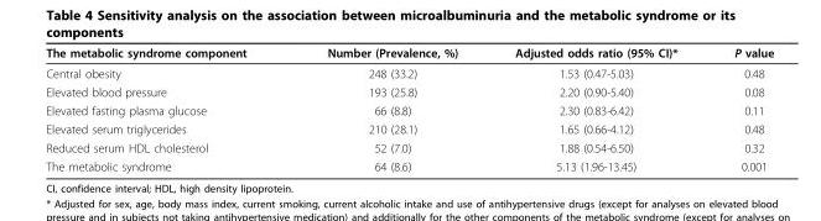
<table><thead><tr><td>The metabolic syndrome component</td><td>Number (Prevalence, %)</td><td>Adjusted odds ratio (95% CI)*</td><td>P value</td></tr></thead><tbody><tr><td>Central obesity</td><td>248 (33.2)</td><td>1.53 (0.47-5.03)</td><td>0.48</td></tr><tr><td>Elevated blood pressure</td><td>193 (25.8)</td><td>2.20 (0.90-5.40)</td><td>0.08</td></tr><tr><td>Elevated fasting plasma glucose</td><td>66 (8.8)</td><td>2.30 (0.83-6.42)</td><td>0.11</td></tr><tr><td>Elevated serum triglycerides</td><td>210 (28.1)</td><td>1.65 (0.66-4.12)</td><td>0.48</td></tr><tr><td>Reduced serum HDL cholesterol</td><td>52 (7.0)</td><td>1.88 (0.54-6.50)</td><td>0.32</td></tr><tr><td>The metabolic syndrome</td><td>64 (8.6)</td><td>5.13 (1.96-13.45)</td><td>0.001</td></tr></tbody></table>